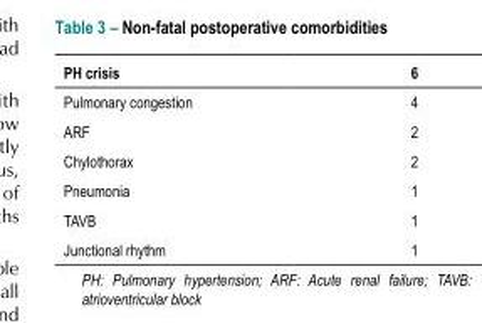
<table><thead><tr><td>PH crisis</td><td>6</td></tr></thead><tbody><tr><td>Pulmonary congestion</td><td>4</td></tr><tr><td>ARF</td><td>2</td></tr><tr><td>Chylothorax</td><td>2</td></tr><tr><td>Pneumonia</td><td>1</td></tr><tr><td>TAVB</td><td>1</td></tr><tr><td>Junctional rhythm</td><td>1</td></tr></tbody></table>